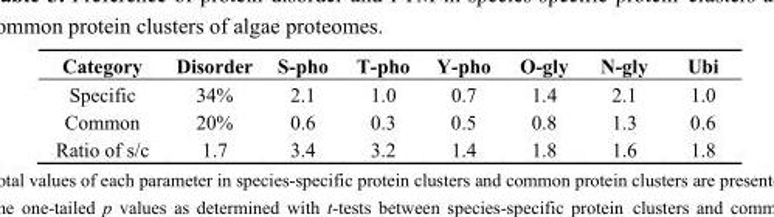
<table><thead><tr><td>Category</td><td>Disorder</td><td>S-pho</td><td>T-pho</td><td>Y-pho</td><td>O-gly</td><td>N-gly</td><td>Ubi</td></tr></thead><tbody><tr><td>Specific</td><td>34%</td><td>2.1</td><td>1.0</td><td>0.7</td><td>1.4</td><td>2.1</td><td>1.0</td></tr><tr><td>Common</td><td>20%</td><td>0.6</td><td>0.3</td><td>0.5</td><td>0.8</td><td>1.3</td><td>0.6</td></tr><tr><td>Ratio of s/c</td><td>1.7</td><td>3.4</td><td>3.2</td><td>1.4</td><td>1.8</td><td>1.6</td><td>1.8</td></tr></tbody></table>